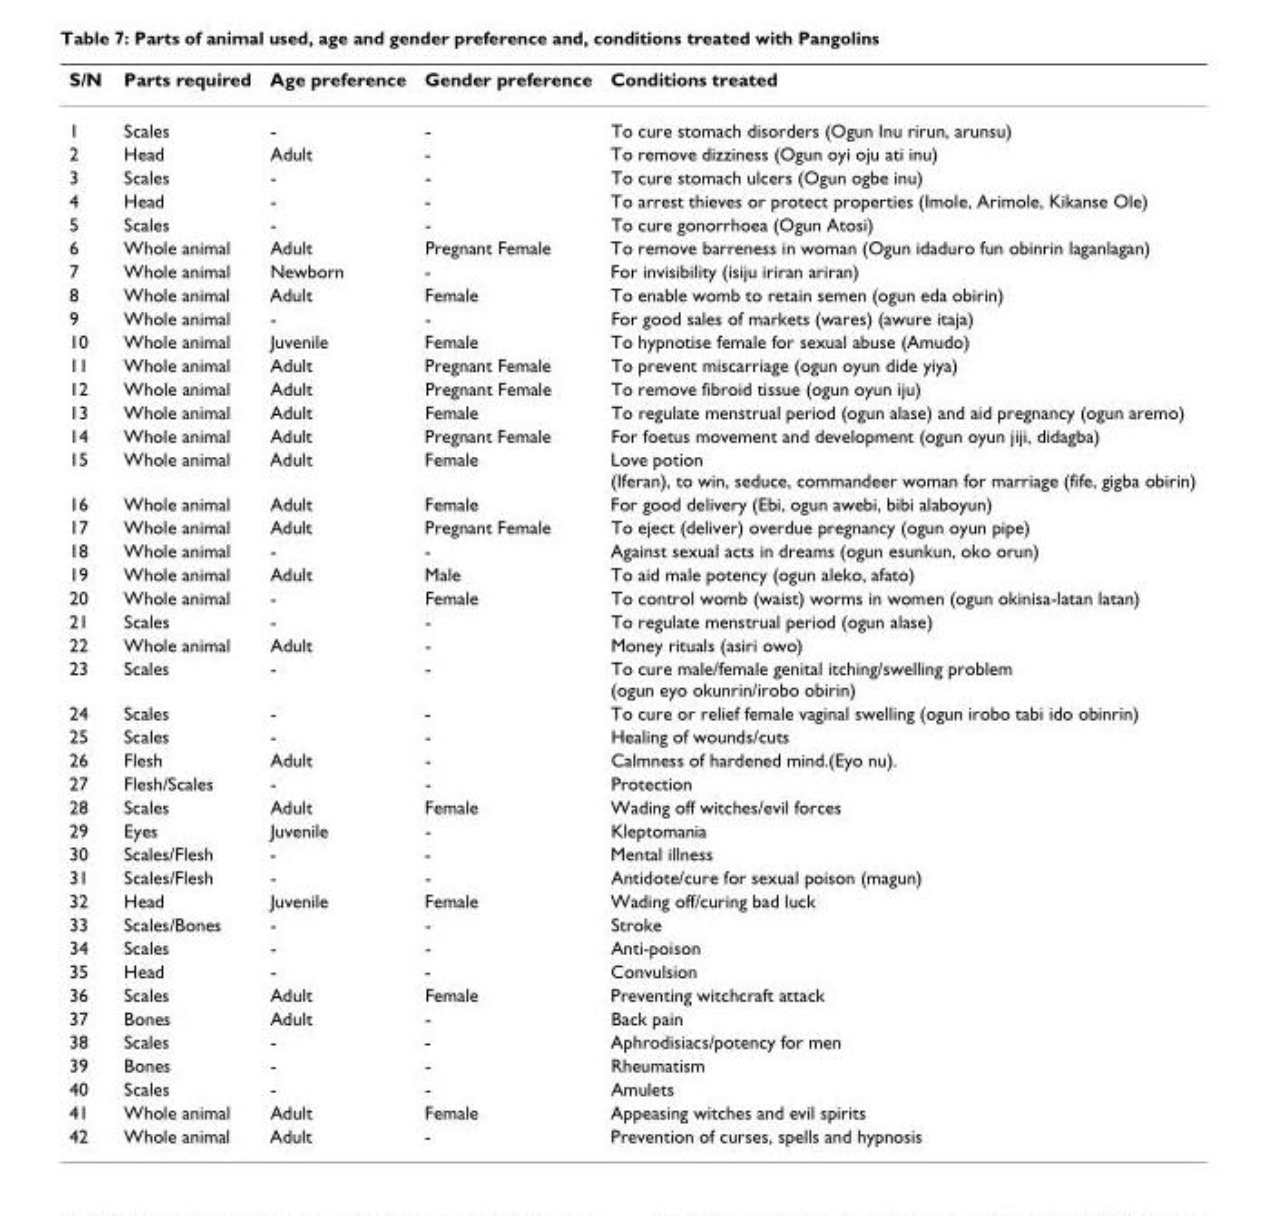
<table><thead><tr><td>S/N</td><td>Parts required</td><td>Age preference</td><td>Gender preference</td><td>Conditions treated</td></tr></thead><tbody><tr><td>1</td><td>Scales</td><td>-</td><td>-</td><td>To cure stomach disorders (Ogun Inu rirun, arunsu)</td></tr><tr><td>2</td><td>Head</td><td>Adult</td><td>-</td><td>To remove dizziness (Ogun oyi oju ati inu)</td></tr><tr><td>3</td><td>Scales</td><td>-</td><td>-</td><td>To cure stomach ulcers (Ogun ogbe inu)</td></tr><tr><td>4</td><td>Head</td><td>-</td><td>-</td><td>To arrest thieves or protect properties (Imole, Arimole, Kikanse Ole)</td></tr><tr><td>5</td><td>Scales</td><td>-</td><td>-</td><td>To cure gonorrhoea (Ogun Atosi)</td></tr><tr><td>6</td><td>Whole animal</td><td>Adult</td><td>Pregnant Female</td><td>To remove barreness in woman (Ogun idaduro fun obinrin laganlagan)</td></tr><tr><td>7</td><td>Whole animal</td><td>Newborn</td><td>-</td><td>For invisibility (isiju iriran ariran)</td></tr><tr><td>8</td><td>Whole animal</td><td>Adult</td><td>Female</td><td>To enable womb to retain semen (ogun eda obirin)</td></tr><tr><td>9</td><td>Whole animal</td><td>-</td><td>-</td><td>For good sales of markets (wares) (awure itaja)</td></tr><tr><td>10</td><td>Whole animal</td><td>Juvenile</td><td>Female</td><td>To hypnotise female for sexual abuse (Amudo)</td></tr><tr><td>11</td><td>Whole animal</td><td>Adult</td><td>Pregnant Female</td><td>To prevent miscarriage (ogun oyun dide yiya)</td></tr><tr><td>12</td><td>Whole animal</td><td>Adult</td><td>Pregnant Female</td><td>To remove fibroid tissue (ogun oyun iju)</td></tr><tr><td>13</td><td>Whole animal</td><td>Adult</td><td>Female</td><td>To regulate menstrual period (ogun alase) and aid pregnancy (ogun aremo)</td></tr><tr><td>14</td><td>Whole animal</td><td>Adult</td><td>Pregnant Female</td><td>For foetus movement and development (ogun oyun jiji, didagba)</td></tr><tr><td>15</td><td>Whole animal</td><td>Adult</td><td>Female</td><td>Love potion (Iferan), to win, seduce, commandeer woman for marriage (fife, gigba obirin)</td></tr><tr><td>16</td><td>Whole animal</td><td>Adult</td><td>Female</td><td>For good delivery (Ebi, ogun awebi, bibi alaboyun)</td></tr><tr><td>17</td><td>Whole animal</td><td>Adult</td><td>Pregnant Female</td><td>To eject (deliver) overdue pregnancy (ogun oyun pipe)</td></tr><tr><td>18</td><td>Whole animal</td><td>-</td><td>-</td><td>Against sexual acts in dreams (ogun esunkun, oko orun)</td></tr><tr><td>19</td><td>Whole animal</td><td>Adult</td><td>Male</td><td>To aid male potency (ogun aleko, afato)</td></tr><tr><td>20</td><td>Whole animal</td><td>-</td><td>Female</td><td>To control womb (waist) worms in women (ogun okinisa-latan latan)</td></tr><tr><td>21</td><td>Scales</td><td>-</td><td>-</td><td>To regulate menstrual period (ogun alase)</td></tr><tr><td>22</td><td>Whole animal</td><td>Adult</td><td>-</td><td>Money rituals (asiri owo)</td></tr><tr><td>23</td><td>Scales</td><td>-</td><td>-</td><td>To cure male/female genital itching/swelling problem (ogun eyo okunrin/irobo obirin)</td></tr><tr><td>24</td><td>Scales</td><td>-</td><td>-</td><td>To cure or relief female vaginal swelling (ogun irobo tabi ido obinrin)</td></tr><tr><td>25</td><td>Scales</td><td>-</td><td>-</td><td>Healing of wounds/cuts</td></tr><tr><td>26</td><td>Flesh</td><td>Adult</td><td>-</td><td>Calmness of hardened mind.(Eyo nu).</td></tr><tr><td>27</td><td>Flesh/Scales</td><td>-</td><td>-</td><td>Protection</td></tr><tr><td>28</td><td>Scales</td><td>Adult</td><td>Female</td><td>Wading off witches/evil forces</td></tr><tr><td>29</td><td>Eyes</td><td>Juvenile</td><td>-</td><td>Kleptomania</td></tr><tr><td>30</td><td>Scales/Flesh</td><td>-</td><td>-</td><td>Mental illness</td></tr><tr><td>31</td><td>Scales/Flesh</td><td>-</td><td>-</td><td>Antidote/cure for sexual poison (magun)</td></tr><tr><td>32</td><td>Head</td><td>Juvenile</td><td>Female</td><td>Wading off/curing bad luck</td></tr><tr><td>33</td><td>Scales/Bones</td><td>-</td><td>-</td><td>Stroke</td></tr><tr><td>34</td><td>Scales</td><td>-</td><td>-</td><td>Anti-poison</td></tr><tr><td>35</td><td>Head</td><td>-</td><td>-</td><td>Convulsion</td></tr><tr><td>36</td><td>Scales</td><td>Adult</td><td>Female</td><td>Preventing witchcraft attack</td></tr><tr><td>37</td><td>Bones</td><td>Adult</td><td>-</td><td>Back pain</td></tr><tr><td>38</td><td>Scales</td><td>-</td><td>-</td><td>Aphrodisiacs/potency for men</td></tr><tr><td>39</td><td>Bones</td><td>-</td><td>-</td><td>Rheumatism</td></tr><tr><td>40</td><td>Scales</td><td>-</td><td>-</td><td>Amulets</td></tr><tr><td>41</td><td>Whole animal</td><td>Adult</td><td>Female</td><td>Appeasing witches and evil spirits</td></tr><tr><td>42</td><td>Whole animal</td><td>Adult</td><td>-</td><td>Prevention of curses, spells and hypnosis</td></tr></tbody></table>